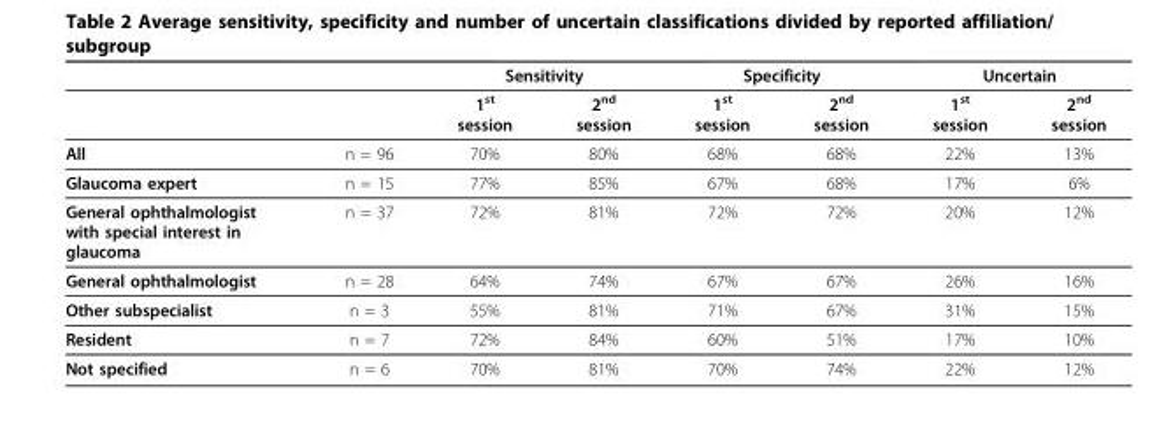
<table><thead><tr><td rowspan="2"></td><td rowspan="2"></td><td colspan="2">Sensitivity</td><td colspan="2">Specificity</td><td colspan="2">Uncertain</td></tr><tr><td>1<sup>st</sup> session</td><td>2<sup>nd</sup> session</td><td>1<sup>st</sup> session</td><td>2<sup>nd</sup> session</td><td>1<sup>st</sup> session</td><td>2<sup>nd</sup> session</td></tr></thead><tbody><tr><td>All</td><td>n = 96</td><td>70%</td><td>80%</td><td>68%</td><td>68%</td><td>22%</td><td>13%</td></tr><tr><td>Glaucoma expert</td><td>n = 15</td><td>77%</td><td>85%</td><td>67%</td><td>68%</td><td>17%</td><td>6%</td></tr><tr><td>General ophthalmologist with special interest in glaucoma</td><td>n = 37</td><td>72%</td><td>81%</td><td>72%</td><td>72%</td><td>20%</td><td>12%</td></tr><tr><td>General ophthalmologist</td><td>n = 28</td><td>64%</td><td>74%</td><td>67%</td><td>67%</td><td>26%</td><td>16%</td></tr><tr><td>Other subspecialist</td><td>n = 3</td><td>55%</td><td>81%</td><td>71%</td><td>67%</td><td>31%</td><td>15%</td></tr><tr><td>Resident</td><td>n = 7</td><td>72%</td><td>84%</td><td>60%</td><td>51%</td><td>17%</td><td>10%</td></tr><tr><td>Not specified</td><td>n = 6</td><td>70%</td><td>81%</td><td>70%</td><td>74%</td><td>22%</td><td>12%</td></tr></tbody></table>